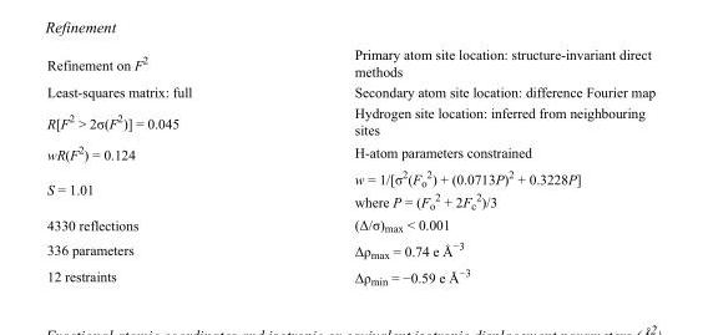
<table><tbody><tr><td>Refinement on F<sup>2</sup></td><td>Primary atom site location: structure-invariant direct methods</td></tr><tr><td>Least-squares matrix: full</td><td>Secondary atom site location: difference Fourier map</td></tr><tr><td>R[F<sup>2</sup> &gt; 2σ(F<sup>2</sup>)] = 0.045</td><td>Hydrogen site location: inferred from neighbouring sites</td></tr><tr><td>wR(F<sup>2</sup>) = 0.124</td><td>H-atom parameters constrained</td></tr><tr><td>S = 1.01</td><td>w = 1/[σ<sup>2</sup>(F<sub>o</sub> <sup>2</sup>) + (0.0713P)<sup>2</sup> + 0.3228P] where P = (F<sub>o</sub> <sup>2</sup> + 2F<sub>c</sub> <sup>2</sup>)/3</td></tr><tr><td>4330 reflections</td><td>(Δ/σ)<sub>max</sub> &lt; 0.001</td></tr><tr><td>336 parameters</td><td>Δρ<sub>max</sub> = 0.74 e Å<sup>−3</sup></td></tr><tr><td>12 restraints</td><td>Δρ<sub>min</sub> = −0.59 e Å<sup>−3</sup></td></tr></tbody></table>